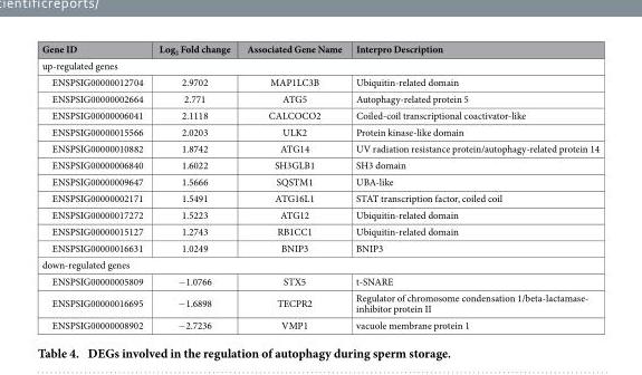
<table><thead><tr><td>Gene ID</td><td>Log<sub>2</sub> Fold change</td><td>Associated Gene Name</td><td>Interpro Description</td></tr></thead><tbody><tr><td colspan="4">up-regulated genes</td></tr><tr><td>ENSPSIG00000012704</td><td>2.9702</td><td>MAP1LC3B</td><td>Ubiquitin-related domain</td></tr><tr><td>ENSPSIG00000002664</td><td>2.771</td><td>ATG5</td><td>Autophagy-related protein 5</td></tr><tr><td>ENSPSIG00000006041</td><td>2.1118</td><td>CALCOCO2</td><td>Coiled-coil transcriptional coactivator-like</td></tr><tr><td>ENSPSIG00000015566</td><td>2.0203</td><td>ULK2</td><td>Protein kinase-like domain</td></tr><tr><td>ENSPSIG00000010882</td><td>1.8742</td><td>ATG14</td><td>UV radiation resistance protein/autophagy-related protein 14</td></tr><tr><td>ENSPSIG00000006840</td><td>1.6022</td><td>SH3GLB1</td><td>SH3 domain</td></tr><tr><td>ENSPSIG00000009647</td><td>1.5666</td><td>SQSTM1</td><td>UBA-like</td></tr><tr><td>ENSPSIG00000002171</td><td>1.5491</td><td>ATG16L1</td><td>STAT transcription factor, coiled coil</td></tr><tr><td>ENSPSIG00000017272</td><td>1.5223</td><td>ATG12</td><td>Ubiquitin-related domain</td></tr><tr><td>ENSPSIG00000015127</td><td>1.2743</td><td>RB1CC1</td><td>Ubiquitin-related domain</td></tr><tr><td>ENSPSIG00000016631</td><td>1.0249</td><td>BNIP3</td><td>BNIP3</td></tr><tr><td colspan="4">down-regulated genes</td></tr><tr><td>ENSPSIG00000005809</td><td>− 1.0766</td><td>STX5</td><td>t-SNARE</td></tr><tr><td>ENSPSIG00000016695</td><td>− 1.6898</td><td>TECPR2</td><td>Regulator of chromosome condensation 1/beta-lactamase- inhibitor protein II</td></tr><tr><td>ENSPSIG00000008902</td><td>− 2.7236</td><td>VMP1</td><td>vacuole membrane protein 1</td></tr></tbody></table>